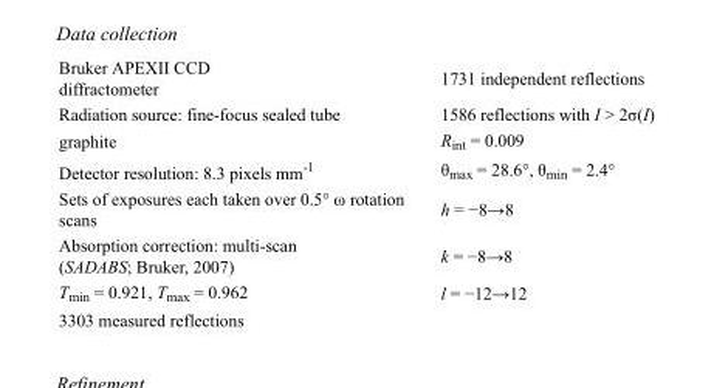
<table><tbody><tr><td>Bruker APEXII CCD diffractometer</td><td>1731 independent reflections</td></tr><tr><td>Radiation source: fine-focus sealed tube</td><td>1586 reflections with I &gt; 2σ(I)</td></tr><tr><td>graphite</td><td>R<sub>int</sub> = 0.009</td></tr><tr><td>Detector resolution: 8.3 pixels mm<sup>-1</sup></td><td>θ<sub>max</sub> = 28.6°, θ<sub>min</sub> = 2.4°</td></tr><tr><td>Sets of exposures each taken over 0.5° ω rotation scans</td><td>h = −8→8</td></tr><tr><td>Absorption correction: multi-scan (SADABS; Bruker, 2007)</td><td>k = −8→8</td></tr><tr><td>T<sub>min</sub> = 0.921, T<sub>max</sub> = 0.962</td><td>l = −12→12</td></tr><tr><td>3303 measured reflections</td><td></td></tr></tbody></table>